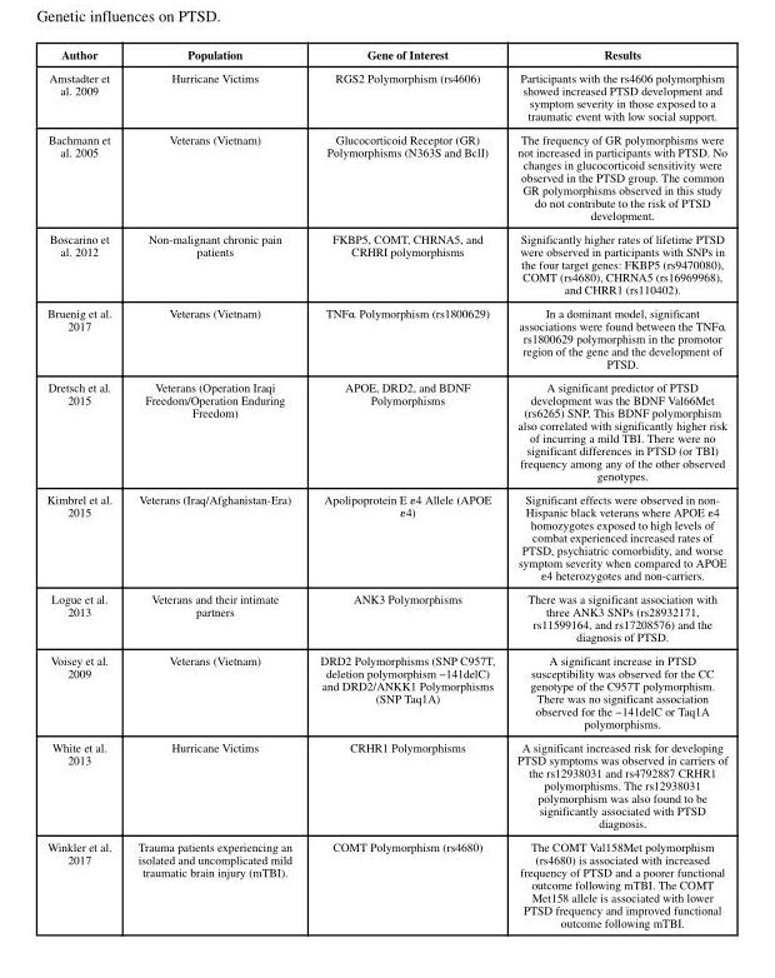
<table><thead><tr><td>Author</td><td>Population</td><td>Gene of Interest</td><td>Results</td></tr></thead><tbody><tr><td>Amstadter et al. 2009</td><td>Hurricane Victims</td><td>RGS2 Polymorphism (rs4606)</td><td>Participants with the rs4606 polymorphism showed increased PTSD development and symptom severity in those exposed to a traumatic event with low social support.</td></tr><tr><td>Bachmann et al. 2005</td><td>Veterans (Vietnam)</td><td>Glucocorticoid Receptor (GR) Polymorphisms (N363S and BclI)</td><td>The frequency of GR polymorphisms were not increased in participants with PTSD. No changes in glucocorticoid sensitivity were observed in the PTSD group. The common GR polymorphisms observed in this study do not contribute to the risk of PTSD development.</td></tr><tr><td>Boscarino et al. 2012</td><td>Non-malignant chronic pain patients</td><td>FKBP5, COMT, CHRNA5, and CRHRI polymorphisms</td><td>Significantly higher rates of lifetime PTSD were observed in participants with SNPs in the four target genes: FKBP5 (rs9470080), COMT (rs4680), CHRNA5 (rs16969968), and CHRR1 (rs110402).</td></tr><tr><td>Bruenig et al. 2017</td><td>Veterans (Vietnam)</td><td>TNFα Polymorphism (rs1800629)</td><td>In a dominant model, significant associations were found between the TNFα rs1800629 polymorphism in the promotor region of the gene and the development of PTSD.</td></tr><tr><td>Dretsch et al. 2015</td><td>Veterans (Operation Iraqi Freedom/Operation Enduring Freedom)</td><td>APOE, DRD2, and BDNF Polymorphisms</td><td>A significant predictor of PTSD development was the BDNF Val66Met (rs6265) SNP. This BDNF polymorphism also correlated with significantly higher risk of incurring a mild TBI. There were no significant differences in PTSD (or TBI) frequency among any of the other observed genotypes.</td></tr><tr><td>Kimbrel et al. 2015</td><td>Veterans (Iraq/Afghanistan-Era)</td><td>Apolipoprotein E ε4 Allele (APOE ε4)</td><td>Significant effects were observed in non- Hispanic black veterans where APOE ε4 homozygotes exposed to high levels of combat experienced increased rates of PTSD, psychiatric comorbidity, and worse symptom severity when compared to APOE ε4 heterozygotes and non-carriers.</td></tr><tr><td>Logue et al. 2013</td><td>Veterans and their intimate partners</td><td>ANK3 Polymorphisms</td><td>There was a significant association with three ANK3 SNPs (rs28932171, rs11599164, and rs17208576) and the diagnosis of PTSD.</td></tr><tr><td>Voisey et al. 2009</td><td>Veterans (Vietnam)</td><td>DRD2 Polymorphisms (SNP C957T, deletion polymorphism −141delC) and DRD2/ANKK1 Polymorphisms (SNP Taq1A)</td><td>A significant increase in PTSD susceptibility was observed for the CC genotype of the C957T polymorphism. There was no significant association observed for the −141delC or Taq1A polymorphisms.</td></tr><tr><td>White et al. 2013</td><td>Hurricane Victims</td><td>CRHR1 Polymorphisms</td><td>A significant increased risk for developing PTSD symptoms was observed in carriers of the rs12938031 and rs4792887 CRHR1 polymorphisms. The rs12938031 polymorphism was also found to be significantly associated with PTSD diagnosis.</td></tr><tr><td>Winkler et al. 2017</td><td>Trauma patients experiencing an isolated and uncomplicated mild traumatic brain injury (mTBI).</td><td>COMT Polymorphism (rs4680)</td><td>The COMT Val158Met polymorphism (rs4680) is associated with increased frequency of PTSD and a poorer functional outcome following mTBI. The COMT Met158 allele is associated with lower PTSD frequency and improved functional outcome following mTBI.</td></tr></tbody></table>